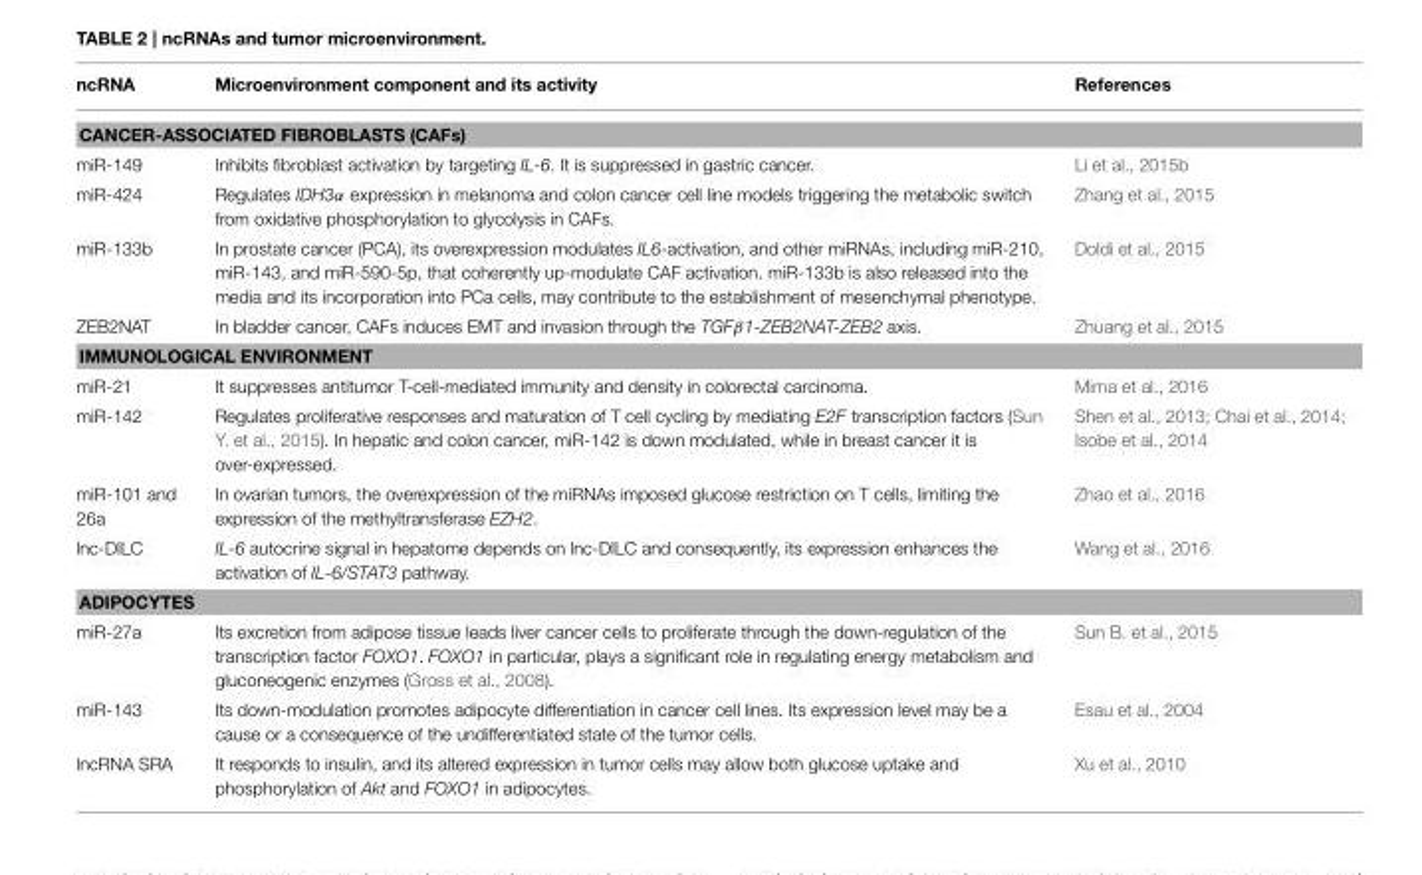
<table><thead><tr><td>ncRNA</td><td>Microenvironment component and its activity</td><td>References</td></tr></thead><tbody><tr><td colspan="3">CANCER-ASSOCIATED FIBROBLASTS (CAFs)</td></tr><tr><td>miR-149</td><td>Inhibits fibroblast activation by targeting IL-6. It is suppressed in gastric cancer.</td><td>Li et al., 2015b</td></tr><tr><td>miR-424</td><td>Regulates IDH3α expression in melanoma and colon cancer cell line models triggering the metabolic switch from oxidative phosphorylation to glycolysis in CAFs.</td><td>Zhang et al., 2015</td></tr><tr><td>miR-133b</td><td>In prostate cancer (PCA), its overexpression modulates IL6-activation, and other miRNAs, including miR-210, miR-143, and miR-590-5p, that coherently up-modulate CAF activation. miR-133b is also released into the media and its incorporation into PCa cells, may contribute to the establishment of mesenchymal phenotype.</td><td>Doldi et al., 2015</td></tr><tr><td>ZEB2NAT</td><td>In bladder cancer, CAFs induces EMT and invasion through the TGFβ1-ZEB2NAT-ZEB2 axis.</td><td>Zhuang et al., 2015</td></tr><tr><td colspan="3">IMMUNOLOGICAL ENVIRONMENT</td></tr><tr><td>miR-21</td><td>It suppresses antitumor T-cell-mediated immunity and density in colorectal carcinoma.</td><td>Mima et al., 2016</td></tr><tr><td>miR-142</td><td>Regulates proliferative responses and maturation of T cell cycling by mediating E2F transcription factors (Sun Y. et al., 2015). In hepatic and colon cancer, miR-142 is down modulated, while in breast cancer it is over-expressed.</td><td>Shen et al., 2013; Chai et al., 2014; Isobe et al., 2014</td></tr><tr><td>miR-101 and 26a</td><td>In ovarian tumors, the overexpression of the miRNAs imposed glucose restriction on T cells, limiting the expression of the methyltransferase EZH2.</td><td>Zhao et al., 2016</td></tr><tr><td>lnc-DILC</td><td>IL-6 autocrine signal in hepatome depends on lnc-DILC and consequently, its expression enhances the activation of IL-6/STAT3 pathway.</td><td>Wang et al., 2016</td></tr><tr><td colspan="3">ADIPOCYTES</td></tr><tr><td>miR-27a</td><td>Its excretion from adipose tissue leads liver cancer cells to proliferate through the down-regulation of the transcription factor FOXO1. FOXO1 in particular, plays a significant role in regulating energy metabolism and gluconeogenic enzymes (Gross et al., 2008).</td><td>Sun B. et al., 2015</td></tr><tr><td>miR-143</td><td>Its down-modulation promotes adipocyte differentiation in cancer cell lines. Its expression level may be a cause or a consequence of the undifferentiated state of the tumor cells.</td><td>Esau et al., 2004</td></tr><tr><td>lncRNA SRA</td><td>It responds to insulin, and its altered expression in tumor cells may allow both glucose uptake and phosphorylation of Akt and FOXO1 in adipocytes.</td><td>Xu et al., 2010</td></tr></tbody></table>